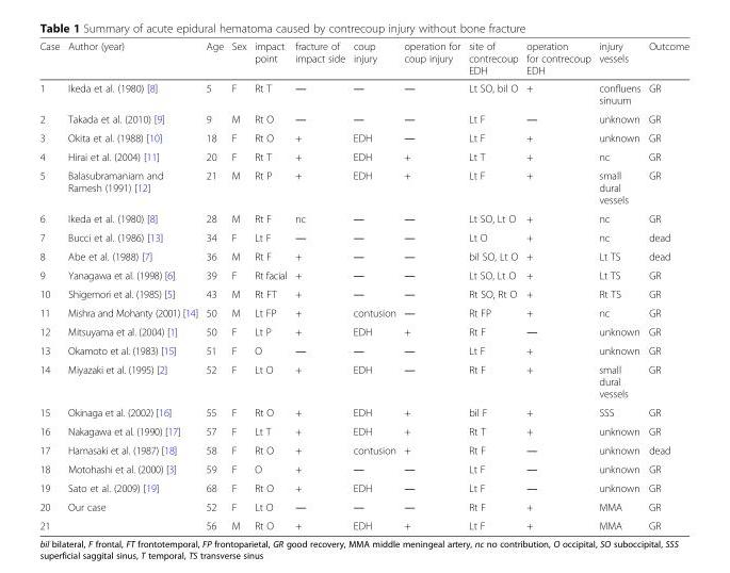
<table><thead><tr><td>Case</td><td>Author (year)</td><td>Age</td><td>Sex</td><td>impact point</td><td>fracture of impact side</td><td>coup injury</td><td>operation for coup injury</td><td>site of contrecoup EDH</td><td>operation for contrecoup EDH</td><td>injury vessels</td><td>Outcome</td></tr></thead><tbody><tr><td>1</td><td>Ikeda et al. (1980) [8]</td><td>5</td><td>F</td><td>Rt T</td><td>―</td><td>―</td><td>―</td><td>Lt SO, bil O</td><td>+</td><td>confluens sinuum</td><td>GR</td></tr><tr><td>2</td><td>Takada et al. (2010) [9]</td><td>9</td><td>M</td><td>Rt O</td><td>―</td><td>―</td><td>―</td><td>Lt F</td><td>―</td><td>unknown</td><td>GR</td></tr><tr><td>3</td><td>Okita et al. (1988) [10]</td><td>18</td><td>F</td><td>Rt O</td><td>+</td><td>EDH</td><td>―</td><td>Lt F</td><td>+</td><td>unknown</td><td>GR</td></tr><tr><td>4</td><td>Hirai et al. (2004) [11]</td><td>20</td><td>F</td><td>Rt T</td><td>+</td><td>EDH</td><td>+</td><td>Lt T</td><td>+</td><td>nc</td><td>GR</td></tr><tr><td>5</td><td>Balasubramaniam and Ramesh (1991) [12]</td><td>21</td><td>M</td><td>Rt P</td><td>+</td><td>EDH</td><td>+</td><td>Lt F</td><td>+</td><td>small dural vessels</td><td>GR</td></tr><tr><td>6</td><td>Ikeda et al. (1980) [8]</td><td>28</td><td>M</td><td>Rt F</td><td>nc</td><td>―</td><td>―</td><td>Lt SO, Lt O</td><td>+</td><td>nc</td><td>GR</td></tr><tr><td>7</td><td>Bucci et al. (1986) [13]</td><td>34</td><td>F</td><td>Lt F</td><td>―</td><td>―</td><td>―</td><td>Lt O</td><td>+</td><td>nc</td><td>dead</td></tr><tr><td>8</td><td>Abe et al. (1988) [7]</td><td>36</td><td>M</td><td>Rt F</td><td>+</td><td>―</td><td>―</td><td>bil SO, Lt O</td><td>+</td><td>Lt TS</td><td>dead</td></tr><tr><td>9</td><td>Yanagawa et al. (1998) [6]</td><td>39</td><td>F</td><td>Rt facial</td><td>+</td><td>―</td><td>―</td><td>Lt SO, Lt O</td><td>+</td><td>Lt TS</td><td>GR</td></tr><tr><td>10</td><td>Shigemori et al. (1985) [5]</td><td>43</td><td>M</td><td>Rt FT</td><td>+</td><td>―</td><td>―</td><td>Rt SO, Rt O</td><td>+</td><td>Rt TS</td><td>GR</td></tr><tr><td>11</td><td>Mishra and Mohanty (2001) [14]</td><td>50</td><td>M</td><td>Lt FP</td><td>+</td><td>contusion</td><td>―</td><td>Rt FP</td><td>+</td><td>nc</td><td>GR</td></tr><tr><td>12</td><td>Mitsuyama et al. (2004) [1]</td><td>50</td><td>F</td><td>Lt P</td><td>+</td><td>EDH</td><td>+</td><td>Rt F</td><td>―</td><td>unknown</td><td>GR</td></tr><tr><td>13</td><td>Okamoto et al. (1983) [15]</td><td>51</td><td>F</td><td>O</td><td>―</td><td>―</td><td>―</td><td>Lt F</td><td>+</td><td>unknown</td><td>GR</td></tr><tr><td>14</td><td>Miyazaki et al. (1995) [2]</td><td>52</td><td>F</td><td>Lt O</td><td>+</td><td>EDH</td><td>―</td><td>Rt F</td><td>+</td><td>small dural vessels</td><td>GR</td></tr><tr><td>15</td><td>Okinaga et al. (2002) [16]</td><td>55</td><td>F</td><td>Rt O</td><td>+</td><td>EDH</td><td>+</td><td>bil F</td><td>+</td><td>SSS</td><td>GR</td></tr><tr><td>16</td><td>Nakagawa et al. (1990) [17]</td><td>57</td><td>F</td><td>Lt T</td><td>+</td><td>EDH</td><td>+</td><td>Rt T</td><td>+</td><td>unknown</td><td>GR</td></tr><tr><td>17</td><td>Hamasaki et al. (1987) [18]</td><td>58</td><td>F</td><td>Rt O</td><td>+</td><td>contusion</td><td>+</td><td>Rt F</td><td>―</td><td>unknown</td><td>dead</td></tr><tr><td>18</td><td>Motohashi et al. (2000) [3]</td><td>59</td><td>F</td><td>O</td><td>+</td><td>―</td><td>―</td><td>Lt F</td><td>―</td><td>unknown</td><td>GR</td></tr><tr><td>19</td><td>Sato et al. (2009) [19]</td><td>68</td><td>F</td><td>Rt O</td><td>+</td><td>EDH</td><td>―</td><td>Lt F</td><td>―</td><td>unknown</td><td>GR</td></tr><tr><td>20</td><td rowspan="2">Our case</td><td>52</td><td>F</td><td>Lt O</td><td>―</td><td>―</td><td>―</td><td>Rt F</td><td>+</td><td>MMA</td><td>GR</td></tr><tr><td>21</td><td>56</td><td>M</td><td>Rt O</td><td>+</td><td>EDH</td><td>+</td><td>Lt F</td><td>+</td><td>MMA</td><td>GR</td></tr></tbody></table>